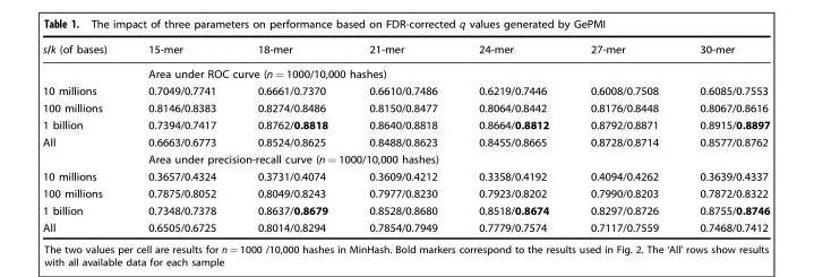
<table><thead><tr><td>s/k (of bases)</td><td>15-mer</td><td>18-mer</td><td>21-mer</td><td>24-mer</td><td>27-mer</td><td>30-mer</td></tr></thead><tbody><tr><td></td><td colspan="6">Area under ROC curve (n = 1000/10,000 hashes)</td></tr><tr><td>10 millions</td><td>0.7049/0.7741</td><td>0.6661/0.7370</td><td>0.6610/0.7486</td><td>0.6219/0.7446</td><td>0.6008/0.7508</td><td>0.6085/0.7553</td></tr><tr><td>100 millions</td><td>0.8146/0.8383</td><td>0.8274/0.8486</td><td>0.8150/0.8477</td><td>0.8064/0.8442</td><td>0.8176/0.8448</td><td>0.8067/0.8616</td></tr><tr><td>1 billion</td><td>0.7394/0.7417</td><td>0.8762/0.8818</td><td>0.8640/0.8818</td><td>0.8664/0.8812</td><td>0.8792/0.8871</td><td>0.8915/0.8897</td></tr><tr><td rowspan="2">All</td><td>0.6663/0.6773</td><td>0.8524/0.8625</td><td>0.8488/0.8623</td><td>0.8455/0.8665</td><td>0.8728/0.8714</td><td>0.8577/0.8762</td></tr><tr><td colspan="6">Area under precision-recall curve (n = 1000/10,000 hashes)</td></tr><tr><td>10 millions</td><td>0.3657/0.4324</td><td>0.3731/0.4074</td><td>0.3609/0.4212</td><td>0.3358/0.4192</td><td>0.4094/0.4262</td><td>0.3639/0.4337</td></tr><tr><td>100 millions</td><td>0.7875/0.8052</td><td>0.8049/0.8243</td><td>0.7977/0.8230</td><td>0.7923/0.8202</td><td>0.7990/0.8203</td><td>0.7872/0.8322</td></tr><tr><td>1 billion</td><td>0.7348/0.7378</td><td>0.8637/0.8679</td><td>0.8528/0.8680</td><td>0.8518/0.8674</td><td>0.8297/0.8726</td><td>0.8755/0.8746</td></tr><tr><td>All</td><td>0.6505/0.6725</td><td>0.8014/0.8294</td><td>0.7854/0.7949</td><td>0.7779/0.7574</td><td>0.7117/0.7559</td><td>0.7468/0.7412</td></tr></tbody></table>